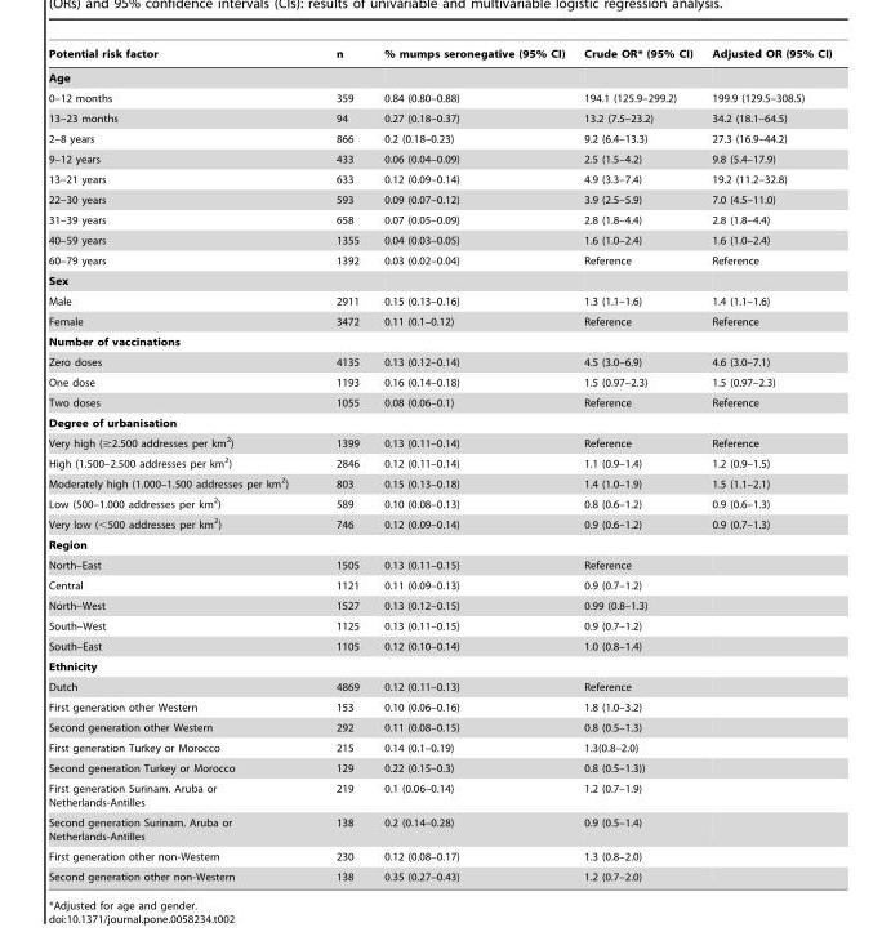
<table><thead><tr><td>Potential risk factor</td><td>n</td><td>% mumps seronegative (95% CI)</td><td>Crude OR* (95% CI)</td><td>Adjusted OR (95% CI)</td></tr></thead><tbody><tr><td colspan="5">Age</td></tr><tr><td>0–12 months</td><td>359</td><td>0.84 (0.80–0.88)</td><td>194.1 (125.9–299.2)</td><td>199.9 (129.5–308.5)</td></tr><tr><td>13–23 months</td><td>94</td><td>0.27 (0.18–0.37)</td><td>13.2 (7.5–23.2)</td><td>34.2 (18.1–64.5)</td></tr><tr><td>2–8 years</td><td>866</td><td>0.2 (0.18–0.23)</td><td>9.2 (6.4–13.3)</td><td>27.3 (16.9–44.2)</td></tr><tr><td>9–12 years</td><td>433</td><td>0.06 (0.04–0.09)</td><td>2.5 (1.5–4.2)</td><td>9.8 (5.4–17.9)</td></tr><tr><td>13–21 years</td><td>633</td><td>0.12 (0.09–0.14)</td><td>4.9 (3.3–7.4)</td><td>19.2 (11.2–32.8)</td></tr><tr><td>22–30 years</td><td>593</td><td>0.09 (0.07–0.12)</td><td>3.9 (2.5–5.9)</td><td>7.0 (4.5–11.0)</td></tr><tr><td>31–39 years</td><td>658</td><td>0.07 (0.05–0.09)</td><td>2.8 (1.8–4.4)</td><td>2.8 (1.8–4.4)</td></tr><tr><td>40–59 years</td><td>1355</td><td>0.04 (0.03–0.05)</td><td>1.6 (1.0–2.4)</td><td>1.6 (1.0–2.4)</td></tr><tr><td>60–79 years</td><td>1392</td><td>0.03 (0.02–0.04)</td><td>Reference</td><td>Reference</td></tr><tr><td colspan="5">Sex</td></tr><tr><td>Male</td><td>2911</td><td>0.15 (0.13–0.16)</td><td>1.3 (1.1–1.6)</td><td>1.4 (1.1–1.6)</td></tr><tr><td>Female</td><td>3472</td><td>0.11 (0.1–0.12)</td><td>Reference</td><td>Reference</td></tr><tr><td colspan="5">Number of vaccinations</td></tr><tr><td>Zero doses</td><td>4135</td><td>0.13 (0.12–0.14)</td><td>4.5 (3.0–6.9)</td><td>4.6 (3.0–7.1)</td></tr><tr><td>One dose</td><td>1193</td><td>0.16 (0.14–0.18)</td><td>1.5 (0.97–2.3)</td><td>1.5 (0.97–2.3)</td></tr><tr><td>Two doses</td><td>1055</td><td>0.08 (0.06–0.1)</td><td>Reference</td><td>Reference</td></tr><tr><td colspan="5">Degree of urbanisation</td></tr><tr><td>Very high (≥2.500 addresses per km<sup>2</sup>)</td><td>1399</td><td>0.13 (0.11–0.14)</td><td>Reference</td><td>Reference</td></tr><tr><td>High (1.500–2.500 addresses per km<sup>2</sup>)</td><td>2846</td><td>0.12 (0.11–0.14)</td><td>1.1 (0.9–1.4)</td><td>1.2 (0.9–1.5)</td></tr><tr><td>Moderately high (1.000–1.500 addresses per km<sup>2</sup>)</td><td>803</td><td>0.15 (0.13–0.18)</td><td>1.4 (1.0–1.9)</td><td>1.5 (1.1–2.1)</td></tr><tr><td>Low (500–1.000 addresses per km<sup>2</sup>)</td><td>589</td><td>0.10 (0.08–0.13)</td><td>0.8 (0.6–1.2)</td><td>0.9 (0.6–1.3)</td></tr><tr><td>Very low (&lt;500 addresses per km<sup>2</sup>)</td><td>746</td><td>0.12 (0.09–0.14)</td><td>0.9 (0.6–1.2)</td><td>0.9 (0.7–1.3)</td></tr><tr><td colspan="5">Region</td></tr><tr><td>North–East</td><td>1505</td><td>0.13 (0.11–0.15)</td><td>Reference</td><td></td></tr><tr><td>Central</td><td>1121</td><td>0.11 (0.09–0.13)</td><td>0.9 (0.7–1.2)</td><td></td></tr><tr><td>North–West</td><td>1527</td><td>0.13 (0.12–0.15)</td><td>0.99 (0.8–1.3)</td><td></td></tr><tr><td>South–West</td><td>1125</td><td>0.13 (0.11–0.15)</td><td>0.9 (0.7–1.2)</td><td></td></tr><tr><td>South–East</td><td>1105</td><td>0.12 (0.10–0.14)</td><td>1.0 (0.8–1.4)</td><td></td></tr><tr><td colspan="5">Ethnicity</td></tr><tr><td>Dutch</td><td>4869</td><td>0.12 (0.11–0.13)</td><td>Reference</td><td></td></tr><tr><td>First generation other Western</td><td>153</td><td>0.10 (0.06–0.16)</td><td>1.8 (1.0–3.2)</td><td></td></tr><tr><td>Second generation other Western</td><td>292</td><td>0.11 (0.08–0.15)</td><td>0.8 (0.5–1.3)</td><td></td></tr><tr><td>First generation Turkey or Morocco</td><td>215</td><td>0.14 (0.1–0.19)</td><td>1.3(0.8–2.0)</td><td></td></tr><tr><td>Second generation Turkey or Morocco</td><td>129</td><td>0.22 (0.15–0.3)</td><td>0.8 (0.5–1.3))</td><td></td></tr><tr><td>First generation Surinam. Aruba or Netherlands-Antilles</td><td>219</td><td>0.1 (0.06–0.14)</td><td>1.2 (0.7–1.9)</td><td></td></tr><tr><td>Second generation Surinam. Aruba or Netherlands-Antilles</td><td>138</td><td>0.2 (0.14–0.28)</td><td>0.9 (0.5–1.4)</td><td></td></tr><tr><td>First generation other non-Western</td><td>230</td><td>0.12 (0.08–0.17)</td><td>1.3 (0.8–2.0)</td><td></td></tr><tr><td>Second generation other non-Western</td><td>138</td><td>0.35 (0.27–0.43)</td><td>1.2 (0.7–2.0)</td><td></td></tr></tbody></table>